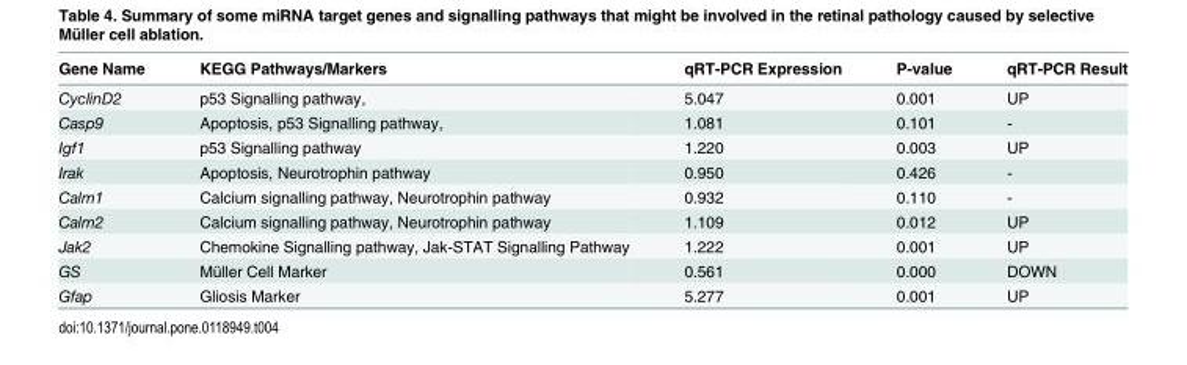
<table><thead><tr><td>Gene Name</td><td>KEGG Pathways/Markers</td><td>qRT-PCR Expression</td><td>P-value</td><td>qRT-PCR Result</td></tr></thead><tbody><tr><td>CyclinD2</td><td>p53 Signalling pathway,</td><td>5.047</td><td>0.001</td><td>UP</td></tr><tr><td>Casp9</td><td>Apoptosis, p53 Signalling pathway,</td><td>1.081</td><td>0.101</td><td>-</td></tr><tr><td>Igf1</td><td>p53 Signalling pathway</td><td>1.220</td><td>0.003</td><td>UP</td></tr><tr><td>Irak</td><td>Apoptosis, Neurotrophin pathway</td><td>0.950</td><td>0.426</td><td>-</td></tr><tr><td>Calm1</td><td>Calcium signalling pathway, Neurotrophin pathway</td><td>0.932</td><td>0.110</td><td>-</td></tr><tr><td>Calm2</td><td>Calcium signalling pathway, Neurotrophin pathway</td><td>1.109</td><td>0.012</td><td>UP</td></tr><tr><td>Jak2</td><td>Chemokine Signalling pathway, Jak-STAT Signalling Pathway</td><td>1.222</td><td>0.001</td><td>UP</td></tr><tr><td>GS</td><td>Müller Cell Marker</td><td>0.561</td><td>0.000</td><td>DOWN</td></tr><tr><td>Gfap</td><td>Gliosis Marker</td><td>5.277</td><td>0.001</td><td>UP</td></tr></tbody></table>